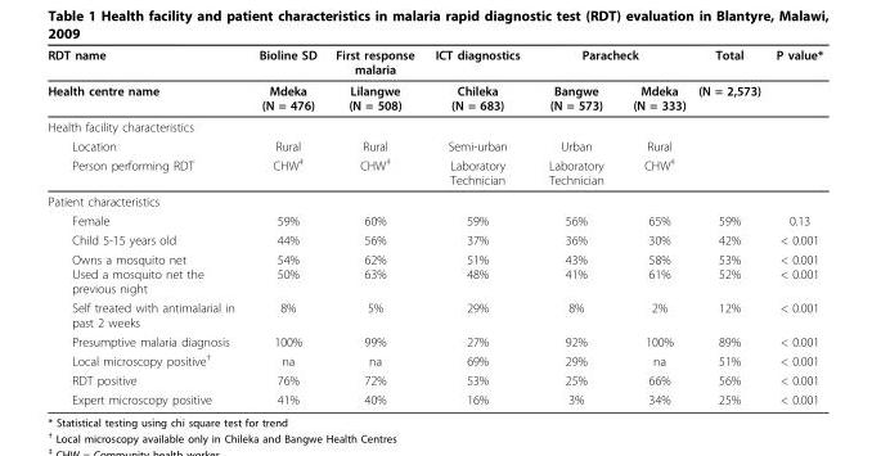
<table><thead><tr><td rowspan="2">RDT name Health centre name</td><td rowspan="2">Bioline SD Mdeka (N = 476)</td><td rowspan="2">First response malaria Lilangwe (N = 508)</td><td rowspan="2">ICT diagnostics Chileka (N = 683)</td><td colspan="2">Paracheck</td><td rowspan="2">Total (N = 2,573)</td><td rowspan="2">P value*</td></tr><tr><td>Bangwe (N = 573)</td><td>Mdeka (N = 333)</td></tr></thead><tbody><tr><td colspan="8">Health facility characteristics</td></tr><tr><td>Location</td><td>Rural</td><td>Rural</td><td>Semi-urban</td><td>Urban</td><td>Rural</td><td></td><td></td></tr><tr><td>Person performing RDT</td><td>CHW<sup>‡</sup></td><td>CHW<sup>‡</sup></td><td>Laboratory Technician</td><td>Laboratory Technician</td><td>CHW<sup>‡</sup></td><td></td><td></td></tr><tr><td colspan="8">Patient characteristics</td></tr><tr><td>Female</td><td>59%</td><td>60%</td><td>59%</td><td>56%</td><td>65%</td><td>59%</td><td>0.13</td></tr><tr><td>Child 5-15 years old</td><td>44%</td><td>56%</td><td>37%</td><td>36%</td><td>30%</td><td>42%</td><td>&lt; 0.001</td></tr><tr><td>Owns a mosquito net Used a mosquito net the previous night</td><td>54% 50%</td><td>62% 63%</td><td>51% 48%</td><td>43% 41%</td><td>58% 61%</td><td>53% 52%</td><td>&lt; 0.001 &lt; 0.001</td></tr><tr><td>Self treated with antimalarial in past 2 weeks</td><td>8%</td><td>5%</td><td>29%</td><td>8%</td><td>2%</td><td>12%</td><td>&lt; 0.001</td></tr><tr><td>Presumptive malaria diagnosis</td><td>100%</td><td>99%</td><td>27%</td><td>92%</td><td>100%</td><td>89%</td><td>&lt; 0.001</td></tr><tr><td>Local microscopy positive<sup>†</sup></td><td>na</td><td>na</td><td>69%</td><td>29%</td><td>na</td><td>51%</td><td>&lt; 0.001</td></tr><tr><td>RDT positive</td><td>76%</td><td>72%</td><td>53%</td><td>25%</td><td>66%</td><td>56%</td><td>&lt; 0.001</td></tr><tr><td>Expert microscopy positive</td><td>41%</td><td>40%</td><td>16%</td><td>3%</td><td>34%</td><td>25%</td><td>&lt; 0.001</td></tr></tbody></table>